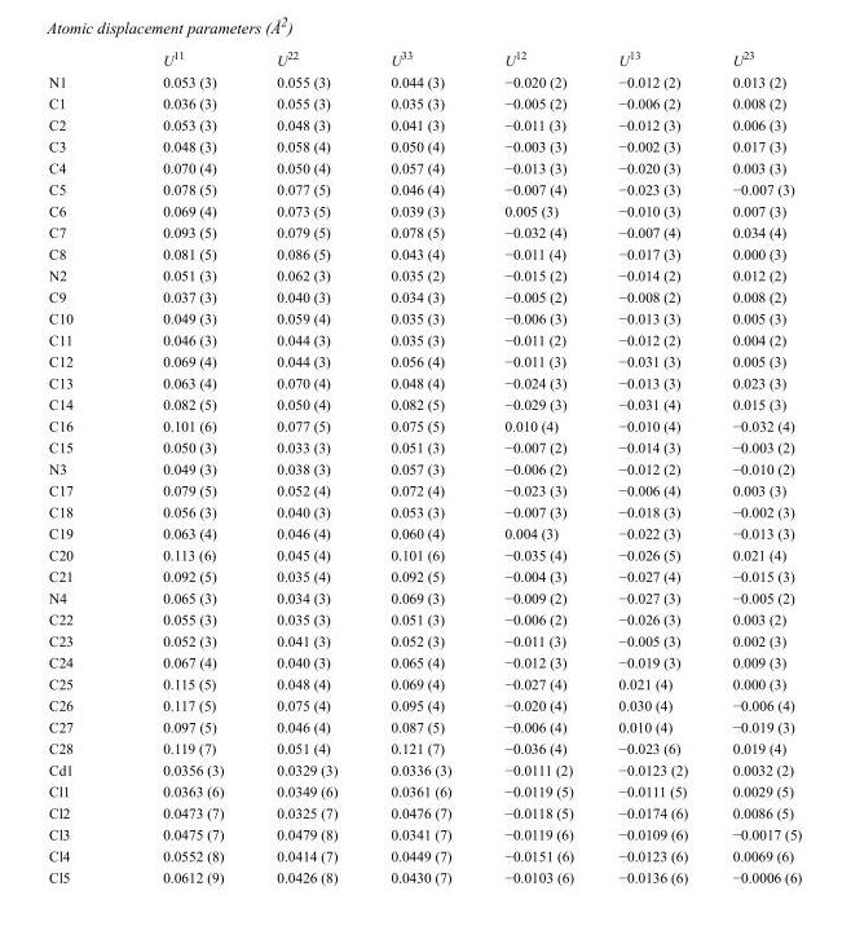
<table><thead><tr><td></td><td>U<sup>11</sup></td><td>U<sup>22</sup></td><td>U<sup>33</sup></td><td>U<sup>12</sup></td><td>U<sup>13</sup></td><td>U<sup>23</sup></td></tr></thead><tbody><tr><td>N1</td><td>0.053 (3)</td><td>0.055 (3)</td><td>0.044 (3)</td><td>−0.020 (2)</td><td>−0.012 (2)</td><td>0.013 (2)</td></tr><tr><td>C1</td><td>0.036 (3)</td><td>0.055 (3)</td><td>0.035 (3)</td><td>−0.005 (2)</td><td>−0.006 (2)</td><td>0.008 (2)</td></tr><tr><td>C2</td><td>0.053 (3)</td><td>0.048 (3)</td><td>0.041 (3)</td><td>−0.011 (3)</td><td>−0.012 (3)</td><td>0.006 (3)</td></tr><tr><td>C3</td><td>0.048 (3)</td><td>0.058 (4)</td><td>0.050 (4)</td><td>−0.003 (3)</td><td>−0.002 (3)</td><td>0.017 (3)</td></tr><tr><td>C4</td><td>0.070 (4)</td><td>0.050 (4)</td><td>0.057 (4)</td><td>−0.013 (3)</td><td>−0.020 (3)</td><td>0.003 (3)</td></tr><tr><td>C5</td><td>0.078 (5)</td><td>0.077 (5)</td><td>0.046 (4)</td><td>−0.007 (4)</td><td>−0.023 (3)</td><td>−0.007 (3)</td></tr><tr><td>C6</td><td>0.069 (4)</td><td>0.073 (5)</td><td>0.039 (3)</td><td>0.005 (3)</td><td>−0.010 (3)</td><td>0.007 (3)</td></tr><tr><td>C7</td><td>0.093 (5)</td><td>0.079 (5)</td><td>0.078 (5)</td><td>−0.032 (4)</td><td>−0.007 (4)</td><td>0.034 (4)</td></tr><tr><td>C8</td><td>0.081 (5)</td><td>0.086 (5)</td><td>0.043 (4)</td><td>−0.011 (4)</td><td>−0.017 (3)</td><td>0.000 (3)</td></tr><tr><td>N2</td><td>0.051 (3)</td><td>0.062 (3)</td><td>0.035 (2)</td><td>−0.015 (2)</td><td>−0.014 (2)</td><td>0.012 (2)</td></tr><tr><td>C9</td><td>0.037 (3)</td><td>0.040 (3)</td><td>0.034 (3)</td><td>−0.005 (2)</td><td>−0.008 (2)</td><td>0.008 (2)</td></tr><tr><td>C10</td><td>0.049 (3)</td><td>0.059 (4)</td><td>0.035 (3)</td><td>−0.006 (3)</td><td>−0.013 (3)</td><td>0.005 (3)</td></tr><tr><td>C11</td><td>0.046 (3)</td><td>0.044 (3)</td><td>0.035 (3)</td><td>−0.011 (2)</td><td>−0.012 (2)</td><td>0.004 (2)</td></tr><tr><td>C12</td><td>0.069 (4)</td><td>0.044 (3)</td><td>0.056 (4)</td><td>−0.011 (3)</td><td>−0.031 (3)</td><td>0.005 (3)</td></tr><tr><td>C13</td><td>0.063 (4)</td><td>0.070 (4)</td><td>0.048 (4)</td><td>−0.024 (3)</td><td>−0.013 (3)</td><td>0.023 (3)</td></tr><tr><td>C14</td><td>0.082 (5)</td><td>0.050 (4)</td><td>0.082 (5)</td><td>−0.029 (3)</td><td>−0.031 (4)</td><td>0.015 (3)</td></tr><tr><td>C16</td><td>0.101 (6)</td><td>0.077 (5)</td><td>0.075 (5)</td><td>0.010 (4)</td><td>−0.010 (4)</td><td>−0.032 (4)</td></tr><tr><td>C15</td><td>0.050 (3)</td><td>0.033 (3)</td><td>0.051 (3)</td><td>−0.007 (2)</td><td>−0.014 (3)</td><td>−0.003 (2)</td></tr><tr><td>N3</td><td>0.049 (3)</td><td>0.038 (3)</td><td>0.057 (3)</td><td>−0.006 (2)</td><td>−0.012 (2)</td><td>−0.010 (2)</td></tr><tr><td>C17</td><td>0.079 (5)</td><td>0.052 (4)</td><td>0.072 (4)</td><td>−0.023 (3)</td><td>−0.006 (4)</td><td>0.003 (3)</td></tr><tr><td>C18</td><td>0.056 (3)</td><td>0.040 (3)</td><td>0.053 (3)</td><td>−0.007 (3)</td><td>−0.018 (3)</td><td>−0.002 (3)</td></tr><tr><td>C19</td><td>0.063 (4)</td><td>0.046 (4)</td><td>0.060 (4)</td><td>0.004 (3)</td><td>−0.022 (3)</td><td>−0.013 (3)</td></tr><tr><td>C20</td><td>0.113 (6)</td><td>0.045 (4)</td><td>0.101 (6)</td><td>−0.035 (4)</td><td>−0.026 (5)</td><td>0.021 (4)</td></tr><tr><td>C21</td><td>0.092 (5)</td><td>0.035 (4)</td><td>0.092 (5)</td><td>−0.004 (3)</td><td>−0.027 (4)</td><td>−0.015 (3)</td></tr><tr><td>N4</td><td>0.065 (3)</td><td>0.034 (3)</td><td>0.069 (3)</td><td>−0.009 (2)</td><td>−0.027 (3)</td><td>−0.005 (2)</td></tr><tr><td>C22</td><td>0.055 (3)</td><td>0.035 (3)</td><td>0.051 (3)</td><td>−0.006 (2)</td><td>−0.026 (3)</td><td>0.003 (2)</td></tr><tr><td>C23</td><td>0.052 (3)</td><td>0.041 (3)</td><td>0.052 (3)</td><td>−0.011 (3)</td><td>−0.005 (3)</td><td>0.002 (3)</td></tr><tr><td>C24</td><td>0.067 (4)</td><td>0.040 (3)</td><td>0.065 (4)</td><td>−0.012 (3)</td><td>−0.019 (3)</td><td>0.009 (3)</td></tr><tr><td>C25</td><td>0.115 (5)</td><td>0.048 (4)</td><td>0.069 (4)</td><td>−0.027 (4)</td><td>0.021 (4)</td><td>0.000 (3)</td></tr><tr><td>C26</td><td>0.117 (5)</td><td>0.075 (4)</td><td>0.095 (4)</td><td>−0.020 (4)</td><td>0.030 (4)</td><td>−0.006 (4)</td></tr><tr><td>C27</td><td>0.097 (5)</td><td>0.046 (4)</td><td>0.087 (5)</td><td>−0.006 (4)</td><td>0.010 (4)</td><td>−0.019 (3)</td></tr><tr><td>C28</td><td>0.119 (7)</td><td>0.051 (4)</td><td>0.121 (7)</td><td>−0.036 (4)</td><td>−0.023 (6)</td><td>0.019 (4)</td></tr><tr><td>Cd1</td><td>0.0356 (3)</td><td>0.0329 (3)</td><td>0.0336 (3)</td><td>−0.0111 (2)</td><td>−0.0123 (2)</td><td>0.0032 (2)</td></tr><tr><td>Cl1</td><td>0.0363 (6)</td><td>0.0349 (6)</td><td>0.0361 (6)</td><td>−0.0119 (5)</td><td>−0.0111 (5)</td><td>0.0029 (5)</td></tr><tr><td>Cl2</td><td>0.0473 (7)</td><td>0.0325 (7)</td><td>0.0476 (7)</td><td>−0.0118 (5)</td><td>−0.0174 (6)</td><td>0.0086 (5)</td></tr><tr><td>Cl3</td><td>0.0475 (7)</td><td>0.0479 (8)</td><td>0.0341 (7)</td><td>−0.0119 (6)</td><td>−0.0109 (6)</td><td>−0.0017 (5)</td></tr><tr><td>Cl4</td><td>0.0552 (8)</td><td>0.0414 (7)</td><td>0.0449 (7)</td><td>−0.0151 (6)</td><td>−0.0123 (6)</td><td>0.0069 (6)</td></tr><tr><td>Cl5</td><td>0.0612 (9)</td><td>0.0426 (8)</td><td>0.0430 (7)</td><td>−0.0103 (6)</td><td>−0.0136 (6)</td><td>−0.0006 (6)</td></tr></tbody></table>